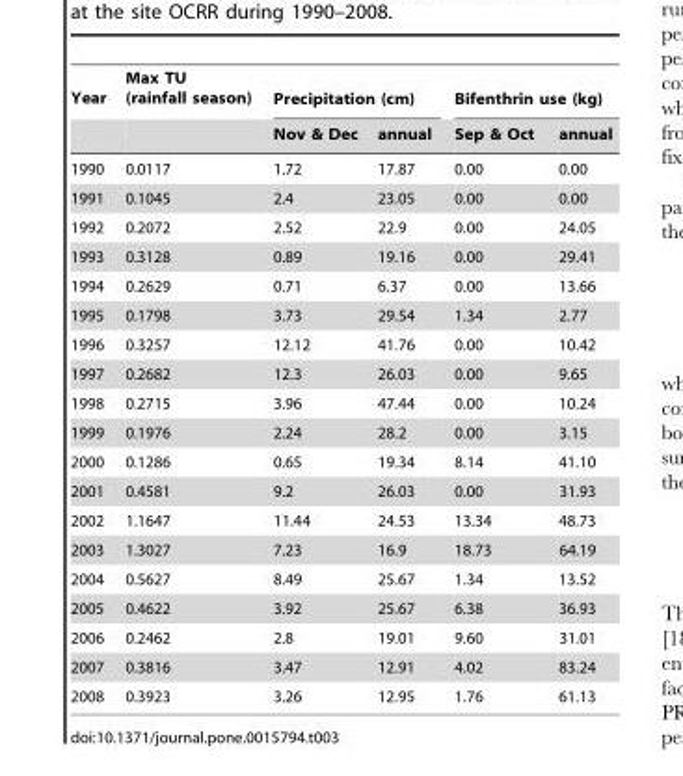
<table><thead><tr><td rowspan="2">Year</td><td rowspan="2">Max TU (rainfall season)</td><td colspan="2">Precipitation (cm)</td><td colspan="2">Bifenthrin use (kg)</td></tr><tr><td>Nov &amp; Dec</td><td>annual</td><td>Sep &amp; Oct</td><td>annual</td></tr></thead><tbody><tr><td>1990</td><td>0.0117</td><td>1.72</td><td>17.87</td><td>0.00</td><td>0.00</td></tr><tr><td>1991</td><td>0.1045</td><td>2.4</td><td>23.05</td><td>0.00</td><td>0.00</td></tr><tr><td>1992</td><td>0.2072</td><td>2.52</td><td>22.9</td><td>0.00</td><td>24.05</td></tr><tr><td>1993</td><td>0.3128</td><td>0.89</td><td>19.16</td><td>0.00</td><td>29.41</td></tr><tr><td>1994</td><td>0.2629</td><td>0.71</td><td>6.37</td><td>0.00</td><td>13.66</td></tr><tr><td>1995</td><td>0.1798</td><td>3.73</td><td>29.54</td><td>1.34</td><td>2.77</td></tr><tr><td>1996</td><td>0.3257</td><td>12.12</td><td>41.76</td><td>0.00</td><td>10.42</td></tr><tr><td>1997</td><td>0.2682</td><td>12.3</td><td>26.03</td><td>0.00</td><td>9.65</td></tr><tr><td>1998</td><td>0.2715</td><td>3.96</td><td>47.44</td><td>0.00</td><td>10.24</td></tr><tr><td>1999</td><td>0.1976</td><td>2.24</td><td>28.2</td><td>0.00</td><td>3.15</td></tr><tr><td>2000</td><td>0.1286</td><td>0.65</td><td>19.34</td><td>8.14</td><td>41.10</td></tr><tr><td>2001</td><td>0.4581</td><td>9.2</td><td>26.03</td><td>0.00</td><td>31.93</td></tr><tr><td>2002</td><td>1.1647</td><td>11.44</td><td>24.53</td><td>13.34</td><td>48.73</td></tr><tr><td>2003</td><td>1.3027</td><td>7.23</td><td>16.9</td><td>18.73</td><td>64.19</td></tr><tr><td>2004</td><td>0.5627</td><td>8.49</td><td>25.67</td><td>1.34</td><td>13.52</td></tr><tr><td>2005</td><td>0.4622</td><td>3.92</td><td>25.67</td><td>6.38</td><td>36.93</td></tr><tr><td>2006</td><td>0.2462</td><td>2.8</td><td>19.01</td><td>9.60</td><td>31.01</td></tr><tr><td>2007</td><td>0.3816</td><td>3.47</td><td>12.91</td><td>4.02</td><td>83.24</td></tr><tr><td>2008</td><td>0.3923</td><td>3.26</td><td>12.95</td><td>1.76</td><td>61.13</td></tr></tbody></table>